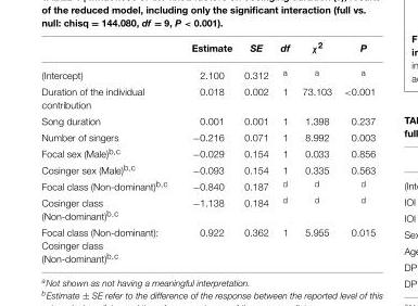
<table><thead><tr><td></td><td>Estimate</td><td>SE</td><td>df</td><td>χ<sup>2</sup></td><td>P</td></tr></thead><tbody><tr><td>(Intercept)</td><td>2.100</td><td>0.312</td><td><sup>a</sup></td><td><sup>a</sup></td><td><sup>a</sup></td></tr><tr><td>Duration of the individual contribution</td><td>0.018</td><td>0.002</td><td>1</td><td>73.103</td><td>&lt;0.001</td></tr><tr><td>Song duration</td><td>0.001</td><td>0.001</td><td>1</td><td>1.398</td><td>0.237</td></tr><tr><td>Number of singers</td><td>−0.216</td><td>0.071</td><td>1</td><td>8.992</td><td>0.003</td></tr><tr><td>Focal sex (Male)<sup>b,c</sup></td><td>−0.029</td><td>0.154</td><td>1</td><td>0.033</td><td>0.856</td></tr><tr><td>Cosinger sex (Male)<sup>b,c</sup></td><td>−0.093</td><td>0.154</td><td>1</td><td>0.335</td><td>0.563</td></tr><tr><td>Focal class (Non-dominant)<sup>b,c</sup></td><td>−0.840</td><td>0.187</td><td><sup>d</sup></td><td><sup>d</sup></td><td><sup>d</sup></td></tr><tr><td>Cosinger class (Non-dominant)<sup>b,c</sup></td><td>−1.138</td><td>0.184</td><td><sup>d</sup></td><td><sup>d</sup></td><td><sup>d</sup></td></tr><tr><td>Focal class (Non-dominant): Cosinger class (Non-dominant)<sup>b,c</sup></td><td>0.922</td><td>0.362</td><td>1</td><td>5.955</td><td>0.015</td></tr></tbody></table>